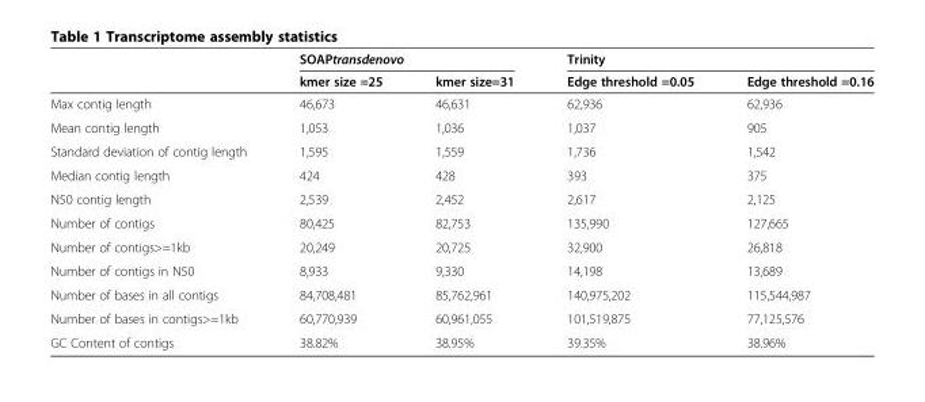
<table><thead><tr><td rowspan="2"></td><td colspan="2">SOAPtransdenovo</td><td colspan="2">Trinity</td></tr><tr><td>kmer size =25</td><td>kmer size=31</td><td>Edge threshold =0.05</td><td>Edge threshold =0.16</td></tr></thead><tbody><tr><td>Max contig length</td><td>46,673</td><td>46,631</td><td>62,936</td><td>62,936</td></tr><tr><td>Mean contig length</td><td>1,053</td><td>1,036</td><td>1,037</td><td>905</td></tr><tr><td>Standard deviation of contig length</td><td>1,595</td><td>1,559</td><td>1,736</td><td>1,542</td></tr><tr><td>Median contig length</td><td>424</td><td>428</td><td>393</td><td>375</td></tr><tr><td>N50 contig length</td><td>2,539</td><td>2,452</td><td>2,617</td><td>2,125</td></tr><tr><td>Number of contigs</td><td>80,425</td><td>82,753</td><td>135,990</td><td>127,665</td></tr><tr><td>Number of contigs&gt;=1kb</td><td>20,249</td><td>20,725</td><td>32,900</td><td>26,818</td></tr><tr><td>Number of contigs in N50</td><td>8,933</td><td>9,330</td><td>14,198</td><td>13,689</td></tr><tr><td>Number of bases in all contigs</td><td>84,708,481</td><td>85,762,961</td><td>140,975,202</td><td>115,544,987</td></tr><tr><td>Number of bases in contigs&gt;=1kb</td><td>60,770,939</td><td>60,961,055</td><td>101,519,875</td><td>77,125,576</td></tr><tr><td>GC Content of contigs</td><td>38.82%</td><td>38.95%</td><td>39.35%</td><td>38.96%</td></tr></tbody></table>